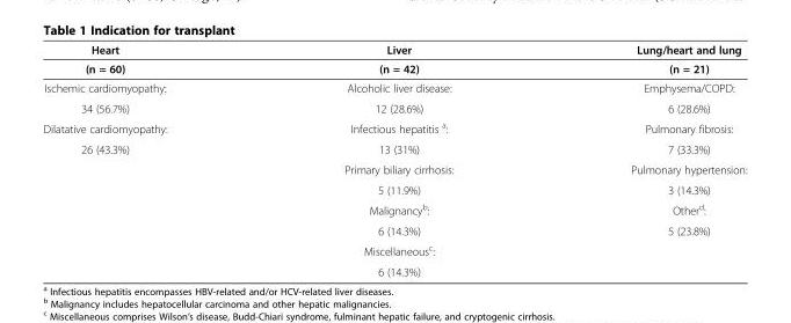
<table><thead><tr><td rowspan="2">Heart (n = 60)</td><td rowspan="2">Liver (n = 42)</td><td rowspan="2">Lung/heart and lung (n = 21)</td></tr><tr></tr></thead><tbody><tr><td>Ischemic cardiomyopathy:</td><td>Alcoholic liver disease:</td><td>Emphysema/COPD:</td></tr><tr><td>34 (56.7%)</td><td>12 (28.6%)</td><td>6 (28.6%)</td></tr><tr><td>Dilatative cardiomyopathy:</td><td>Infectious hepatitis <sup>a</sup>:</td><td>Pulmonary fibrosis:</td></tr><tr><td rowspan="7">26 (43.3%)</td><td>13 (31%)</td><td>7 (33.3%)</td></tr><tr><td>Primary biliary cirrhosis:</td><td>Pulmonary hypertension:</td></tr><tr><td>5 (11.9%)</td><td>3 (14.3%)</td></tr><tr><td>Malignancy<sup>b</sup>:</td><td>Other<sup>d</sup>:</td></tr><tr><td>6 (14.3%)</td><td>5 (23.8%)</td></tr><tr><td>Miscellaneous<sup>c</sup>:</td><td rowspan="2"></td></tr><tr><td>6 (14.3%)</td></tr></tbody></table>